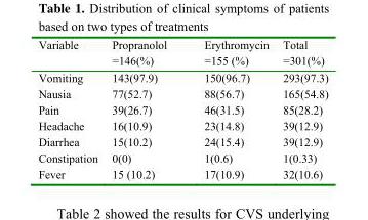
<table><thead><tr><td>Variable</td><td>Propranolol =146(%)</td><td>Erythromycin =155 (%)</td><td>Total =301(%)</td></tr></thead><tbody><tr><td>Vomiting</td><td>143(97.9)</td><td>150(96.7)</td><td>293(97.3)</td></tr><tr><td>Nausia</td><td>77(52.7)</td><td>88(56.7)</td><td>165(54.8)</td></tr><tr><td>Pain</td><td>39(26.7)</td><td>46(31.5)</td><td>85(28.2)</td></tr><tr><td>Headache</td><td>16(10.9)</td><td>23(14.8)</td><td>39(12.9)</td></tr><tr><td>Diarrhea</td><td>15(10.2)</td><td>24(15.4)</td><td>39(12.9)</td></tr><tr><td>Constipation</td><td>0(0)</td><td>1(0.6)</td><td>1(0.33)</td></tr><tr><td>Fever</td><td>15 (10.2)</td><td>17(10.9)</td><td>32(10.6)</td></tr></tbody></table>